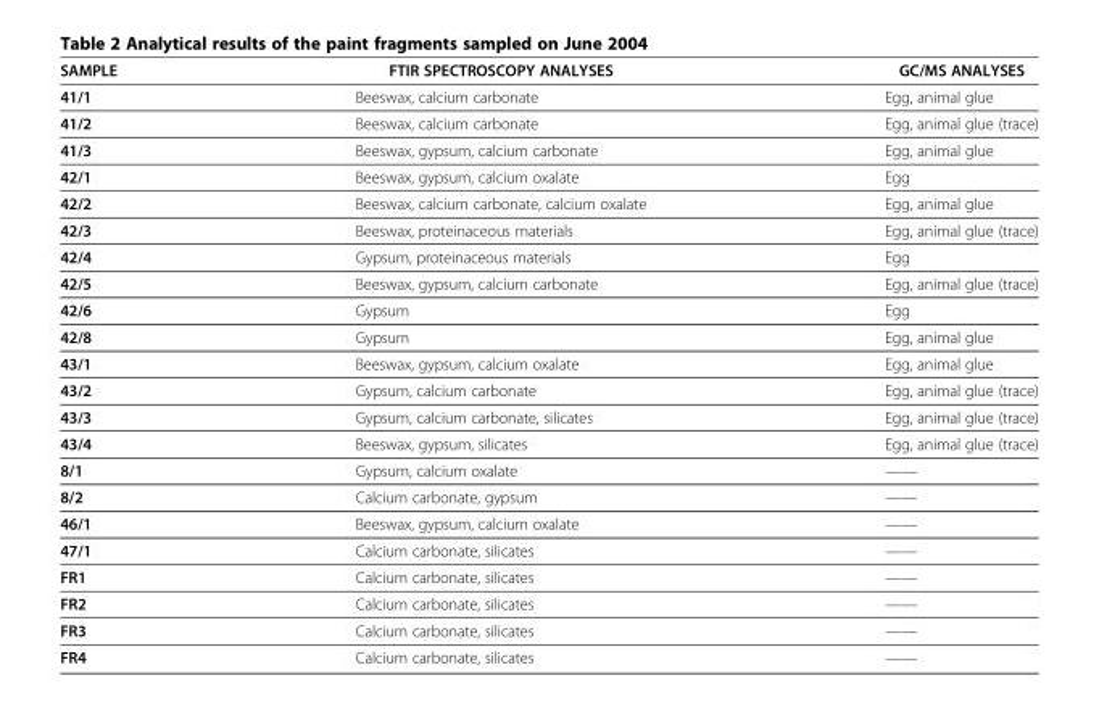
<table><thead><tr><td>SAMPLE</td><td>FTIR SPECTROSCOPY ANALYSES</td><td>GC/MS ANALYSES</td></tr></thead><tbody><tr><td>41/1</td><td>Beeswax, calcium carbonate</td><td>Egg, animal glue</td></tr><tr><td>41/2</td><td>Beeswax, calcium carbonate</td><td>Egg, animal glue (trace)</td></tr><tr><td>41/3</td><td>Beeswax, gypsum, calcium carbonate</td><td>Egg, animal glue</td></tr><tr><td>42/1</td><td>Beeswax, gypsum, calcium oxalate</td><td>Egg</td></tr><tr><td>42/2</td><td>Beeswax, calcium carbonate, calcium oxalate</td><td>Egg, animal glue</td></tr><tr><td>42/3</td><td>Beeswax, proteinaceous materials</td><td>Egg, animal glue (trace)</td></tr><tr><td>42/4</td><td>Gypsum, proteinaceous materials</td><td>Egg</td></tr><tr><td>42/5</td><td>Beeswax, gypsum, calcium carbonate</td><td>Egg, animal glue (trace)</td></tr><tr><td>42/6</td><td>Gypsum</td><td>Egg</td></tr><tr><td>42/8</td><td>Gypsum</td><td>Egg, animal glue</td></tr><tr><td>43/1</td><td>Beeswax, gypsum, calcium oxalate</td><td>Egg, animal glue</td></tr><tr><td>43/2</td><td>Gypsum, calcium carbonate</td><td>Egg, animal glue (trace)</td></tr><tr><td>43/3</td><td>Gypsum, calcium carbonate, silicates</td><td>Egg, animal glue (trace)</td></tr><tr><td>43/4</td><td>Beeswax, gypsum, silicates</td><td>Egg, animal glue (trace)</td></tr><tr><td>8/1</td><td>Gypsum, calcium oxalate</td><td>——</td></tr><tr><td>8/2</td><td>Calcium carbonate, gypsum</td><td>——</td></tr><tr><td>46/1</td><td>Beeswax, gypsum, calcium oxalate</td><td>——</td></tr><tr><td>47/1</td><td>Calcium carbonate, silicates</td><td>——</td></tr><tr><td>FR1</td><td>Calcium carbonate, silicates</td><td>——</td></tr><tr><td>FR2</td><td>Calcium carbonate, silicates</td><td>——</td></tr><tr><td>FR3</td><td>Calcium carbonate, silicates</td><td>——</td></tr><tr><td>FR4</td><td>Calcium carbonate, silicates</td><td>——</td></tr></tbody></table>